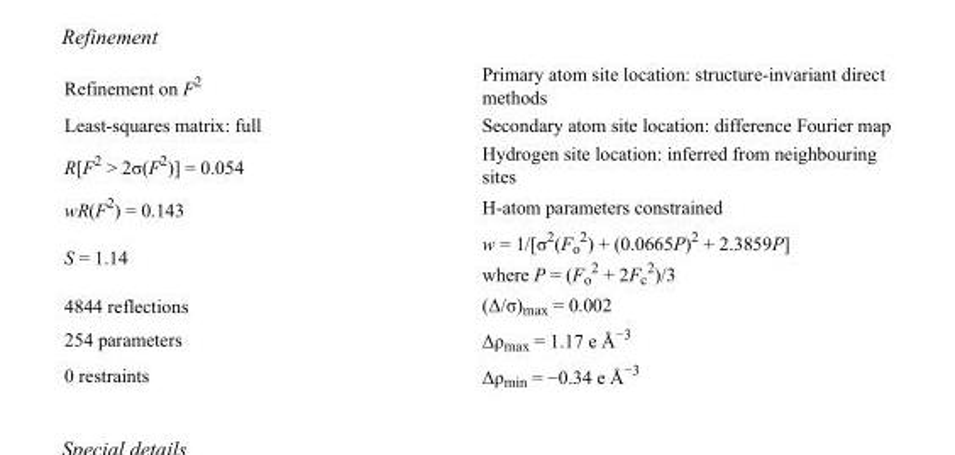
<table><tbody><tr><td>Refinement on F<sup>2</sup></td><td>Primary atom site location: structure-invariant direct methods</td></tr><tr><td>Least-squares matrix: full</td><td>Secondary atom site location: difference Fourier map</td></tr><tr><td>R[F<sup>2</sup> &gt; 2σ(F<sup>2</sup>)] = 0.054</td><td>Hydrogen site location: inferred from neighbouring sites</td></tr><tr><td>wR(F<sup>2</sup>) = 0.143</td><td>H-atom parameters constrained</td></tr><tr><td>S = 1.14</td><td>w = 1/[σ<sup>2</sup>(F<sub>o</sub> <sup>2</sup>) + (0.0665P)<sup>2</sup> + 2.3859P] where P = (F<sub>o</sub> <sup>2</sup> + 2F<sub>c</sub> <sup>2</sup>)/3</td></tr><tr><td>4844 reflections</td><td>(Δ/σ)<sub>max</sub> = 0.002</td></tr><tr><td>254 parameters</td><td>Δρ<sub>max</sub> = 1.17 e Å<sup>−3</sup></td></tr><tr><td>0 restraints</td><td>Δρ<sub>min</sub> = −0.34 e Å<sup>−3</sup></td></tr></tbody></table>